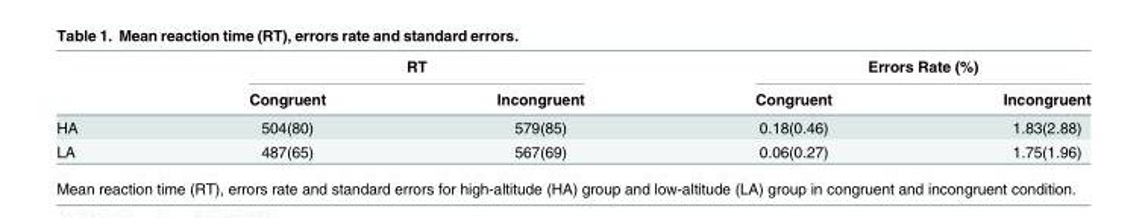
<table><thead><tr><td rowspan="2"></td><td colspan="2">RT</td><td colspan="2">Errors Rate (%)</td></tr><tr><td>Congruent</td><td>Incongruent</td><td>Congruent</td><td>Incongruent</td></tr></thead><tbody><tr><td>HA</td><td>504(80)</td><td>579(85)</td><td>0.18(0.46)</td><td>1.83(2.88)</td></tr><tr><td>LA</td><td>487(65)</td><td>567(69)</td><td>0.06(0.27)</td><td>1.75(1.96)</td></tr></tbody></table>